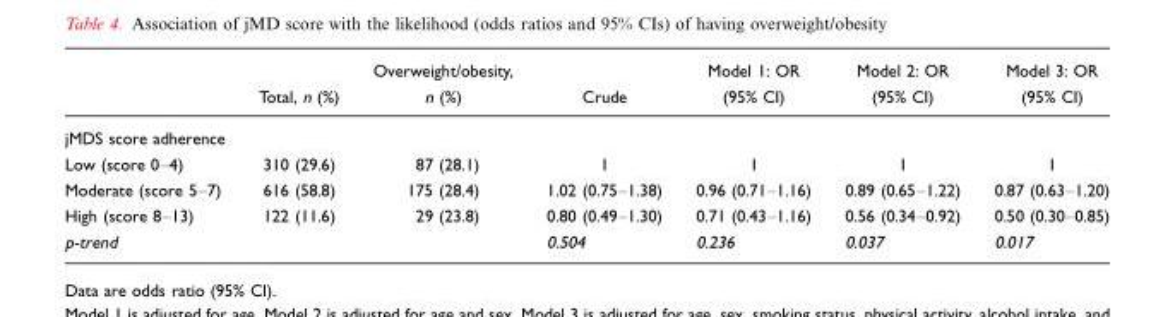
<table><thead><tr><td></td><td>Total, n (%)</td><td>Overweight/obesity, n (%)</td><td>Crude</td><td>Model 1: OR (95% CI)</td><td>Model 2: OR (95% CI)</td><td>Model 3: OR (95% CI)</td></tr></thead><tbody><tr><td colspan="7">jMDS score adherence</td></tr><tr><td>Low (score 0–4)</td><td>310 (29.6)</td><td>87 (28.1)</td><td>1</td><td>1</td><td>1</td><td>1</td></tr><tr><td>Moderate (score 5–7)</td><td>616 (58.8)</td><td>175 (28.4)</td><td>1.02 (0.75–1.38)</td><td>0.96 (0.71–1.16)</td><td>0.89 (0.65–1.22)</td><td>0.87 (0.63–1.20)</td></tr><tr><td>High (score 8–13)</td><td>122 (11.6)</td><td>29 (23.8)</td><td>0.80 (0.49–1.30)</td><td>0.71 (0.43–1.16)</td><td>0.56 (0.34–0.92)</td><td>0.50 (0.30–0.85)</td></tr><tr><td>p-trend</td><td></td><td></td><td>0.504</td><td>0.236</td><td>0.037</td><td>0.017</td></tr></tbody></table>